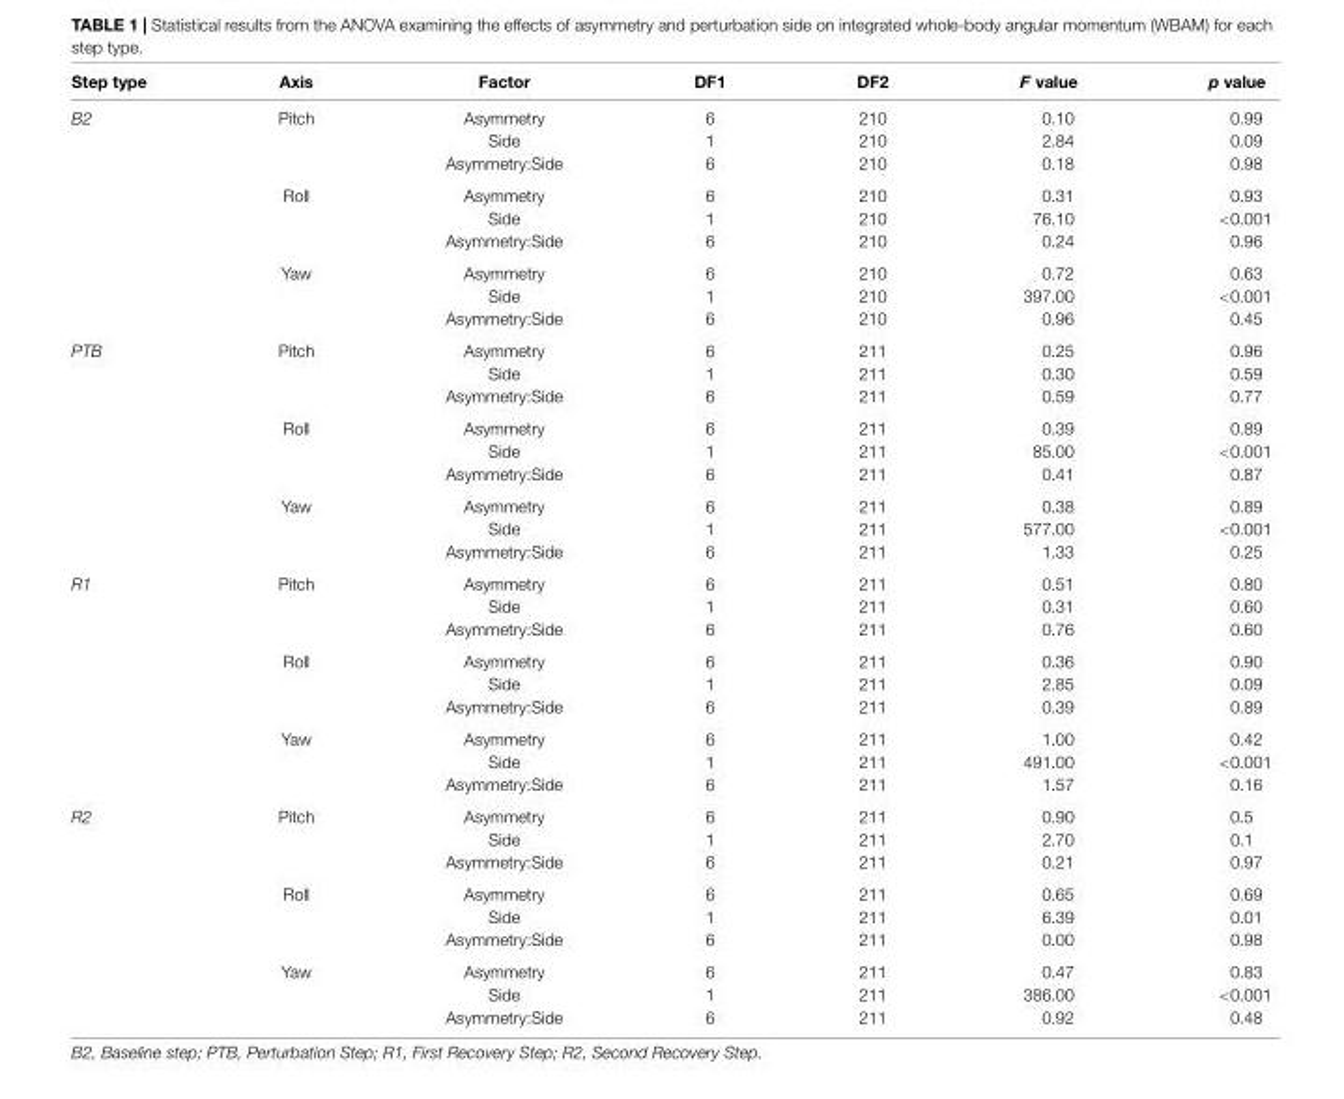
<table><thead><tr><td>Step type</td><td>Axis</td><td>Factor</td><td>DF1</td><td>DF2</td><td>F value</td><td>p value</td></tr></thead><tbody><tr><td rowspan="9">B2</td><td>Pitch</td><td>Asymmetry</td><td>6</td><td>210</td><td>0.10</td><td>0.99</td></tr><tr><td></td><td>Side</td><td>1</td><td>210</td><td>2.84</td><td>0.09</td></tr><tr><td></td><td>Asymmetry:Side</td><td>6</td><td>210</td><td>0.18</td><td>0.98</td></tr><tr><td>Roll</td><td>Asymmetry</td><td>6</td><td>210</td><td>0.31</td><td>0.93</td></tr><tr><td></td><td>Side</td><td>1</td><td>210</td><td>76.10</td><td>&lt;0.001</td></tr><tr><td></td><td>Asymmetry:Side</td><td>6</td><td>210</td><td>0.24</td><td>0.96</td></tr><tr><td>Yaw</td><td>Asymmetry</td><td>6</td><td>210</td><td>0.72</td><td>0.63</td></tr><tr><td></td><td>Side</td><td>1</td><td>210</td><td>397.00</td><td>&lt;0.001</td></tr><tr><td></td><td>Asymmetry:Side</td><td>6</td><td>210</td><td>0.96</td><td>0.45</td></tr><tr><td rowspan="9">PTB</td><td>Pitch</td><td>Asymmetry</td><td>6</td><td>211</td><td>0.25</td><td>0.96</td></tr><tr><td></td><td>Side</td><td>1</td><td>211</td><td>0.30</td><td>0.59</td></tr><tr><td></td><td>Asymmetry:Side</td><td>6</td><td>211</td><td>0.59</td><td>0.77</td></tr><tr><td>Roll</td><td>Asymmetry</td><td>6</td><td>211</td><td>0.39</td><td>0.89</td></tr><tr><td></td><td>Side</td><td>1</td><td>211</td><td>85.00</td><td>&lt;0.001</td></tr><tr><td></td><td>Asymmetry:Side</td><td>6</td><td>211</td><td>0.41</td><td>0.87</td></tr><tr><td>Yaw</td><td>Asymmetry</td><td>6</td><td>211</td><td>0.38</td><td>0.89</td></tr><tr><td></td><td>Side</td><td>1</td><td>211</td><td>577.00</td><td>&lt;0.001</td></tr><tr><td></td><td>Asymmetry:Side</td><td>6</td><td>211</td><td>1.33</td><td>0.25</td></tr><tr><td rowspan="9">R1</td><td>Pitch</td><td>Asymmetry</td><td>6</td><td>211</td><td>0.51</td><td>0.80</td></tr><tr><td></td><td>Side</td><td>1</td><td>211</td><td>0.31</td><td>0.60</td></tr><tr><td></td><td>Asymmetry:Side</td><td>6</td><td>211</td><td>0.76</td><td>0.60</td></tr><tr><td>Roll</td><td>Asymmetry</td><td>6</td><td>211</td><td>0.36</td><td>0.90</td></tr><tr><td></td><td>Side</td><td>1</td><td>211</td><td>2.85</td><td>0.09</td></tr><tr><td></td><td>Asymmetry:Side</td><td>6</td><td>211</td><td>0.39</td><td>0.89</td></tr><tr><td>Yaw</td><td>Asymmetry</td><td>6</td><td>211</td><td>1.00</td><td>0.42</td></tr><tr><td></td><td>Side</td><td>1</td><td>211</td><td>491.00</td><td>&lt;0.001</td></tr><tr><td></td><td>Asymmetry:Side</td><td>6</td><td>211</td><td>1.57</td><td>0.16</td></tr><tr><td rowspan="9">R2</td><td>Pitch</td><td>Asymmetry</td><td>6</td><td>211</td><td>0.90</td><td>0.5</td></tr><tr><td></td><td>Side</td><td>1</td><td>211</td><td>2.70</td><td>0.1</td></tr><tr><td></td><td>Asymmetry:Side</td><td>6</td><td>211</td><td>0.21</td><td>0.97</td></tr><tr><td>Roll</td><td>Asymmetry</td><td>6</td><td>211</td><td>0.65</td><td>0.69</td></tr><tr><td></td><td>Side</td><td>1</td><td>211</td><td>6.39</td><td>0.01</td></tr><tr><td></td><td>Asymmetry:Side</td><td>6</td><td>211</td><td>0.00</td><td>0.98</td></tr><tr><td>Yaw</td><td>Asymmetry</td><td>6</td><td>211</td><td>0.47</td><td>0.83</td></tr><tr><td></td><td>Side</td><td>1</td><td>211</td><td>386.00</td><td>&lt;0.001</td></tr><tr><td></td><td>Asymmetry:Side</td><td>6</td><td>211</td><td>0.92</td><td>0.48</td></tr></tbody></table>